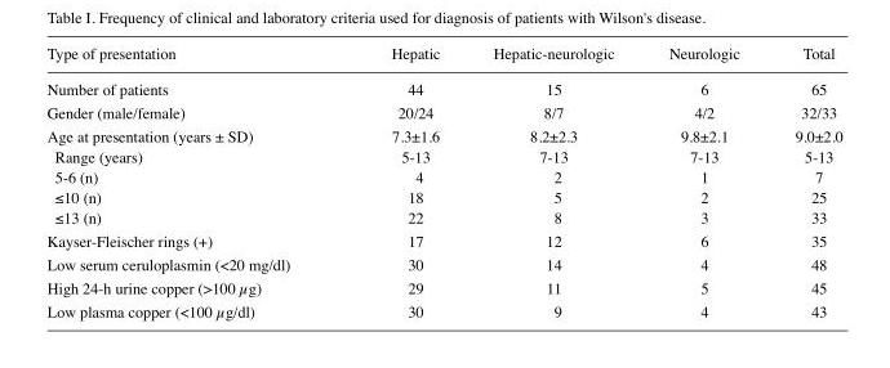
<table><thead><tr><td>Type of presentation</td><td>Hepatic</td><td>Hepatic-neurologic</td><td>Neurologic</td><td>Total</td></tr></thead><tbody><tr><td>Number of patients</td><td>44</td><td>15</td><td>6</td><td>65</td></tr><tr><td>Gender (male/female)</td><td>20/24</td><td>8/7</td><td>4/2</td><td>32/33</td></tr><tr><td>Age at presentation (years ± SD)</td><td>7.3±1.6</td><td>8.2±2.3</td><td>9.8±2.1</td><td>9.0±2.0</td></tr><tr><td>Range (years)</td><td>5-13</td><td>7-13</td><td>7-13</td><td>5-13</td></tr><tr><td>5-6 (n)</td><td>4</td><td>2</td><td>1</td><td>7</td></tr><tr><td>≤10 (n)</td><td>18</td><td>5</td><td>2</td><td>25</td></tr><tr><td>≤13 (n)</td><td>22</td><td>8</td><td>3</td><td>33</td></tr><tr><td>Kayser-Fleischer rings (+)</td><td>17</td><td>12</td><td>6</td><td>35</td></tr><tr><td>Low serum ceruloplasmin (&lt;20 mg/dl)</td><td>30</td><td>14</td><td>4</td><td>48</td></tr><tr><td>High 24-h urine copper (&gt;100 µg)</td><td>29</td><td>11</td><td>5</td><td>45</td></tr><tr><td>Low plasma copper (&lt;100 µg/dl)</td><td>30</td><td>9</td><td>4</td><td>43</td></tr></tbody></table>